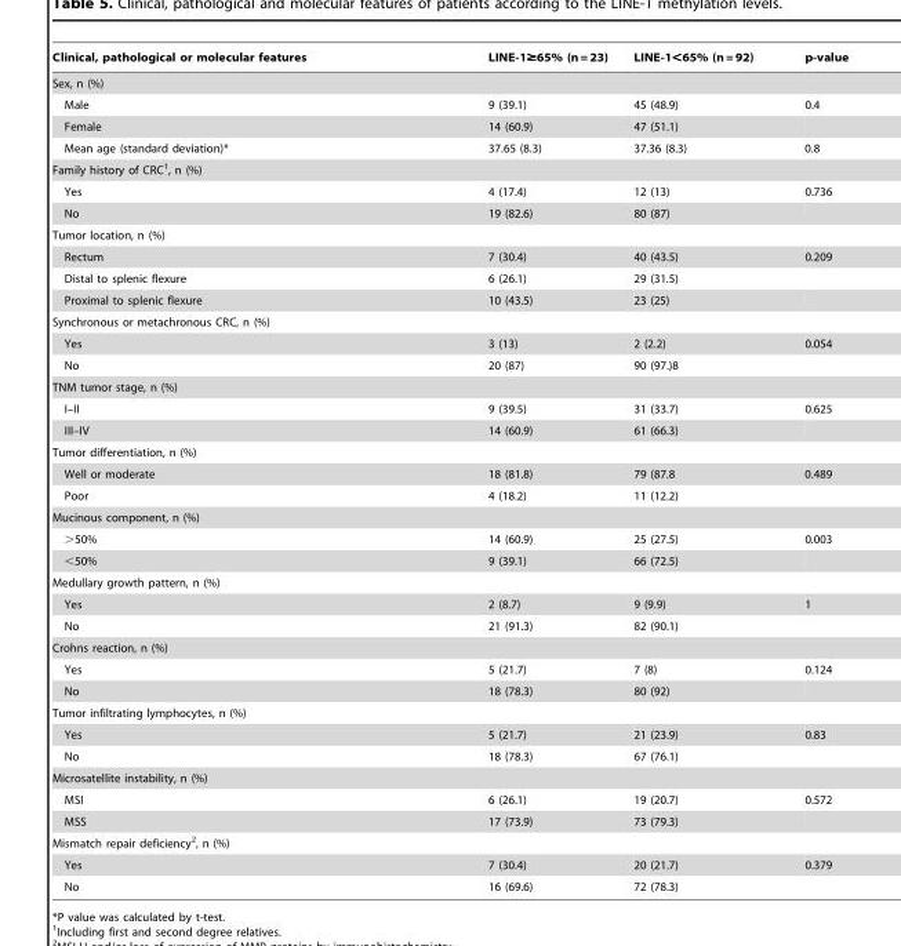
<table><thead><tr><td>Clinical, pathological or molecular features</td><td>LINE-1≥65% (n = 23)</td><td>LINE-1&lt;65% (n = 92)</td><td>p-value</td></tr></thead><tbody><tr><td colspan="4">Sex, n (%)</td></tr><tr><td>Male</td><td>9 (39.1)</td><td>45 (48.9)</td><td>0.4</td></tr><tr><td>Female</td><td>14 (60.9)</td><td>47 (51.1)</td><td></td></tr><tr><td>Mean age (standard deviation)*</td><td>37.65 (8.3)</td><td>37.36 (8.3)</td><td>0.8</td></tr><tr><td colspan="4">Family history of CRC<sup>1</sup>, n (%)</td></tr><tr><td>Yes</td><td>4 (17.4)</td><td>12 (13)</td><td>0.736</td></tr><tr><td>No</td><td>19 (82.6)</td><td>80 (87)</td><td></td></tr><tr><td colspan="4">Tumor location, n (%)</td></tr><tr><td>Rectum</td><td>7 (30.4)</td><td>40 (43.5)</td><td>0.209</td></tr><tr><td>Distal to splenic flexure</td><td>6 (26.1)</td><td>29 (31.5)</td><td></td></tr><tr><td>Proximal to splenic flexure</td><td>10 (43.5)</td><td>23 (25)</td><td></td></tr><tr><td colspan="4">Synchronous or metachronous CRC, n (%)</td></tr><tr><td>Yes</td><td>3 (13)</td><td>2 (2.2)</td><td>0.054</td></tr><tr><td>No</td><td>20 (87)</td><td>90 (97.)8</td><td></td></tr><tr><td colspan="4">TNM tumor stage, n (%)</td></tr><tr><td>I–II</td><td>9 (39.5)</td><td>31 (33.7)</td><td>0.625</td></tr><tr><td>III–IV</td><td>14 (60.9)</td><td>61 (66.3)</td><td></td></tr><tr><td colspan="4">Tumor differentiation, n (%)</td></tr><tr><td>Well or moderate</td><td>18 (81.8)</td><td>79 (87.8</td><td>0.489</td></tr><tr><td>Poor</td><td>4 (18.2)</td><td>11 (12.2)</td><td></td></tr><tr><td colspan="4">Mucinous component, n (%)</td></tr><tr><td>&gt;50%</td><td>14 (60.9)</td><td>25 (27.5)</td><td>0.003</td></tr><tr><td>&lt;50%</td><td>9 (39.1)</td><td>66 (72.5)</td><td></td></tr><tr><td colspan="4">Medullary growth pattern, n (%)</td></tr><tr><td>Yes</td><td>2 (8.7)</td><td>9 (9.9)</td><td>1</td></tr><tr><td>No</td><td>21 (91.3)</td><td>82 (90.1)</td><td></td></tr><tr><td colspan="4">Crohns reaction, n (%)</td></tr><tr><td>Yes</td><td>5 (21.7)</td><td>7 (8)</td><td>0.124</td></tr><tr><td>No</td><td>18 (78.3)</td><td>80 (92)</td><td></td></tr><tr><td colspan="4">Tumor infiltrating lymphocytes, n (%)</td></tr><tr><td>Yes</td><td>5 (21.7)</td><td>21 (23.9)</td><td>0.83</td></tr><tr><td>No</td><td>18 (78.3)</td><td>67 (76.1)</td><td></td></tr><tr><td colspan="4">Microsatellite instability, n (%)</td></tr><tr><td>MSI</td><td>6 (26.1)</td><td>19 (20.7)</td><td>0.572</td></tr><tr><td>MSS</td><td>17 (73.9)</td><td>73 (79.3)</td><td></td></tr><tr><td colspan="4">Mismatch repair deficiency<sup>2</sup>, n (%)</td></tr><tr><td>Yes</td><td>7 (30.4)</td><td>20 (21.7)</td><td>0.379</td></tr><tr><td>No</td><td>16 (69.6)</td><td>72 (78.3)</td><td></td></tr></tbody></table>